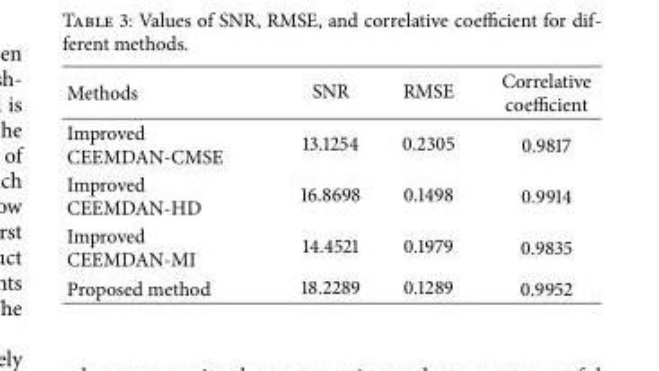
<table><thead><tr><td>Methods</td><td>SNR</td><td>RMSE</td><td>Correlative coefficient</td></tr></thead><tbody><tr><td>Improved CEEMDAN-CMSE</td><td>13.1254</td><td>0.2305</td><td>0.9817</td></tr><tr><td>Improved CEEMDAN-HD</td><td>16.8698</td><td>0.1498</td><td>0.9914</td></tr><tr><td>Improved CEEMDAN-MI</td><td>14.4521</td><td>0.1979</td><td>0.9835</td></tr><tr><td>Proposed method</td><td>18.2289</td><td>0.1289</td><td>0.9952</td></tr></tbody></table>